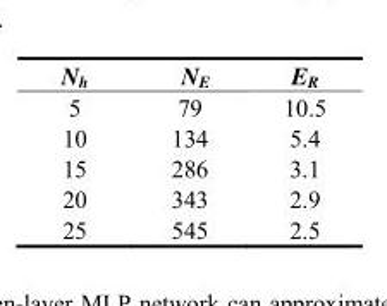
<table><thead><tr><td>N<sub>h</sub></td><td>N<sub>E</sub></td><td>E<sub>R</sub></td></tr></thead><tbody><tr><td>5</td><td>79</td><td>10.5</td></tr><tr><td>10</td><td>134</td><td>5.4</td></tr><tr><td>15</td><td>286</td><td>3.1</td></tr><tr><td>20</td><td>343</td><td>2.9</td></tr><tr><td>25</td><td>545</td><td>2.5</td></tr></tbody></table>